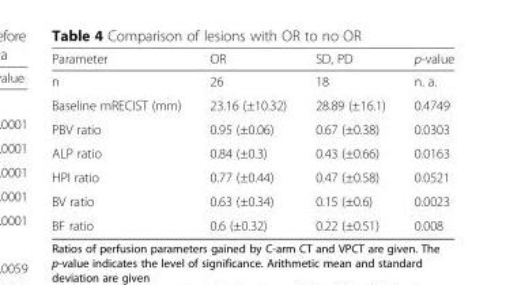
<table><thead><tr><td>Parameter</td><td>OR</td><td>SD, PD</td><td>p-value</td></tr></thead><tbody><tr><td>n</td><td>26</td><td>18</td><td>n. a.</td></tr><tr><td>Baseline mRECIST (mm)</td><td>23.16 (±10.32)</td><td>28.89 (±16.1)</td><td>0.4749</td></tr><tr><td>PBV ratio</td><td>0.95 (±0.06)</td><td>0.67 (±0.38)</td><td>0.0303</td></tr><tr><td>ALP ratio</td><td>0.84 (±0.3)</td><td>0.43 (±0.66)</td><td>0.0163</td></tr><tr><td>HPI ratio</td><td>0.77 (±0.44)</td><td>0.47 (±0.58)</td><td>0.0521</td></tr><tr><td>BV ratio</td><td>0.63 (±0.34)</td><td>0.15 (±0.6)</td><td>0.0023</td></tr><tr><td>BF ratio</td><td>0.6 (±0.32)</td><td>0.22 (±0.51)</td><td>0.008</td></tr></tbody></table>